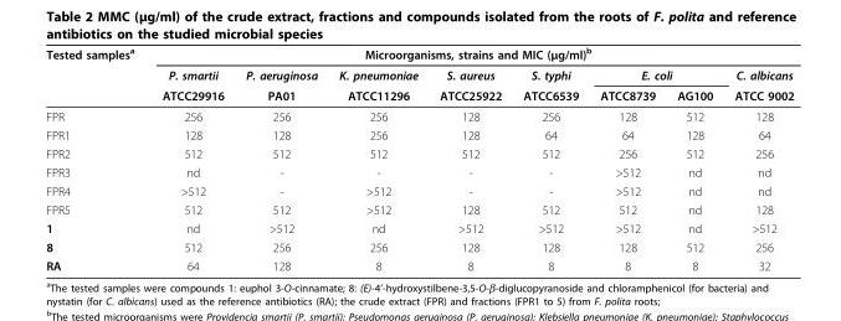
<table><thead><tr><td rowspan="3">Tested samples<sup>a</sup></td><td colspan="8">Microorganisms, strains and MIC (μg/ml)<sup>b</sup></td></tr><tr><td rowspan="2">P. smartii ATCC29916</td><td rowspan="2">P. aeruginosa PA01</td><td rowspan="2">K. pneumoniae ATCC11296</td><td rowspan="2">S. aureus ATCC25922</td><td rowspan="2">S. typhi ATCC6539</td><td colspan="2">E. coli</td><td rowspan="2">C. albicans ATCC 9002</td></tr><tr><td>ATCC8739</td><td>AG100</td></tr></thead><tbody><tr><td>FPR</td><td>256</td><td>256</td><td>256</td><td>128</td><td>256</td><td>128</td><td>512</td><td>128</td></tr><tr><td>FPR1</td><td>128</td><td>128</td><td>256</td><td>128</td><td>64</td><td>64</td><td>128</td><td>64</td></tr><tr><td>FPR2</td><td>512</td><td>512</td><td>512</td><td>512</td><td>512</td><td>256</td><td>512</td><td>256</td></tr><tr><td>FPR3</td><td>nd</td><td>-</td><td>-</td><td>-</td><td>-</td><td>&gt;512</td><td>nd</td><td>nd</td></tr><tr><td>FPR4</td><td>&gt;512</td><td>-</td><td>&gt;512</td><td>-</td><td>-</td><td>&gt;512</td><td>nd</td><td>nd</td></tr><tr><td>FPR5</td><td>512</td><td>512</td><td>&gt;512</td><td>128</td><td>512</td><td>512</td><td>nd</td><td>128</td></tr><tr><td>1</td><td>nd</td><td>&gt;512</td><td>nd</td><td>&gt;512</td><td>&gt;512</td><td>&gt;512</td><td>nd</td><td>&gt;512</td></tr><tr><td>8</td><td>512</td><td>256</td><td>256</td><td>128</td><td>128</td><td>128</td><td>512</td><td>256</td></tr><tr><td>RA</td><td>64</td><td>128</td><td>8</td><td>8</td><td>8</td><td>8</td><td>8</td><td>32</td></tr></tbody></table>